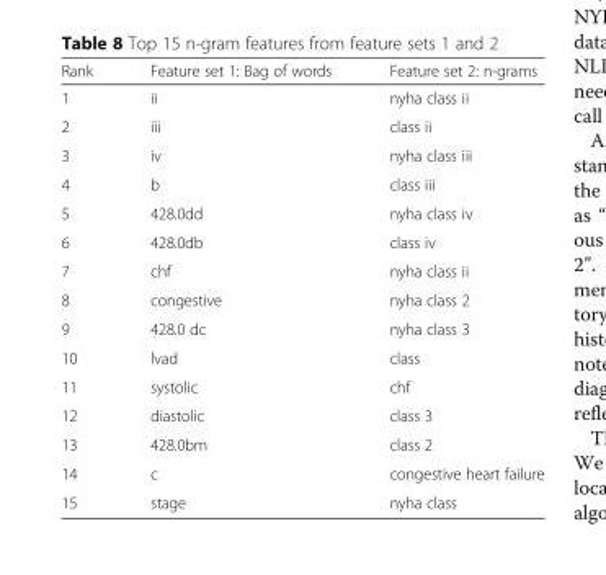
<table><thead><tr><td>Rank</td><td>Feature set 1: Bag of words</td><td>Feature set 2: n-grams</td></tr></thead><tbody><tr><td>1</td><td>ii</td><td>nyha class ii</td></tr><tr><td>2</td><td>iii</td><td>class ii</td></tr><tr><td>3</td><td>iv</td><td>nyha class iii</td></tr><tr><td>4</td><td>b</td><td>class iii</td></tr><tr><td>5</td><td>428.0dd</td><td>nyha class iv</td></tr><tr><td>6</td><td>428.0db</td><td>class iv</td></tr><tr><td>7</td><td>chf</td><td>nyha class ii</td></tr><tr><td>8</td><td>congestive</td><td>nyha class 2</td></tr><tr><td>9</td><td>428.0 dc</td><td>nyha class 3</td></tr><tr><td>10</td><td>lvad</td><td>class</td></tr><tr><td>11</td><td>systolic</td><td>chf</td></tr><tr><td>12</td><td>diastolic</td><td>class 3</td></tr><tr><td>13</td><td>428.0bm</td><td>class 2</td></tr><tr><td>14</td><td>c</td><td>congestive heart failure</td></tr><tr><td>15</td><td>stage</td><td>nyha class</td></tr></tbody></table>